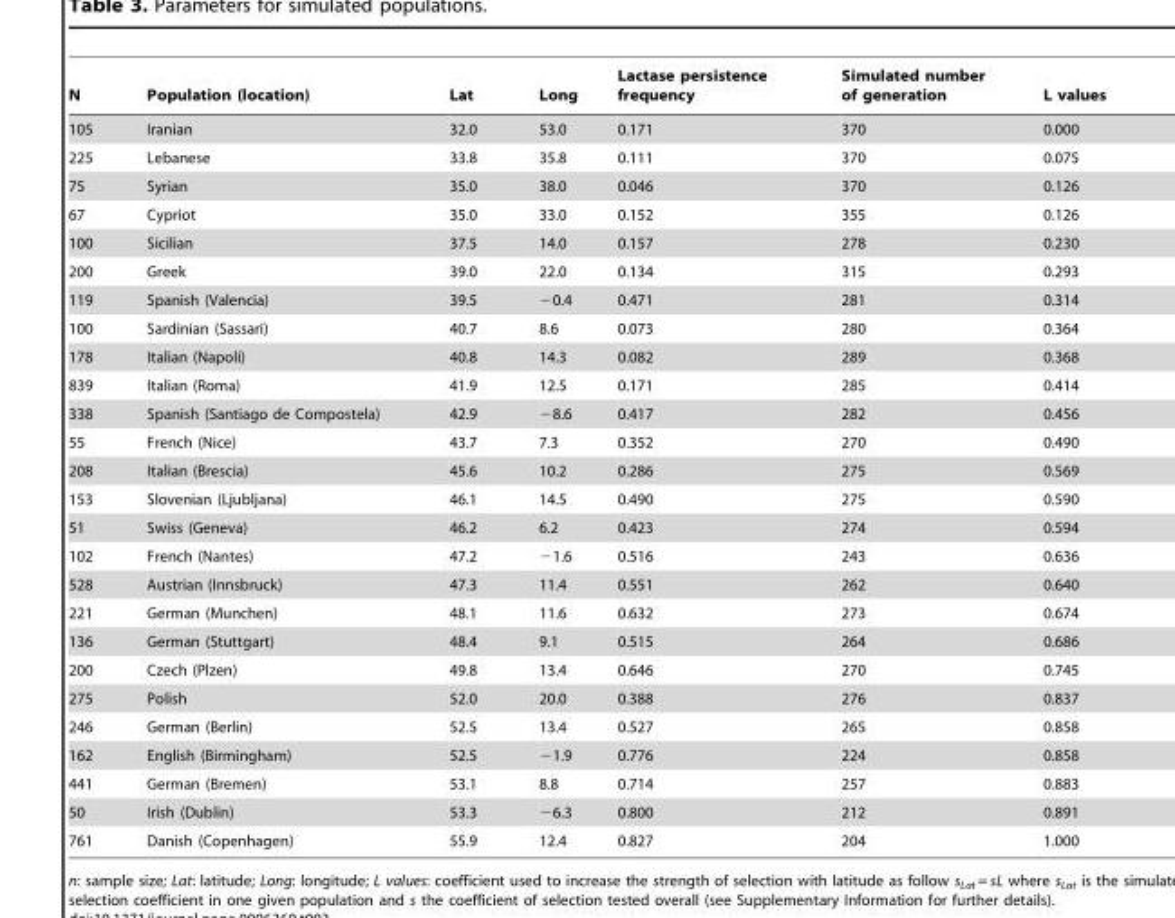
<table><thead><tr><td>N</td><td>Population (location)</td><td>Lat</td><td>Long</td><td>Lactase persistence frequency</td><td>Simulated number of generation</td><td>L values</td></tr></thead><tbody><tr><td>105</td><td>Iranian</td><td>32.0</td><td>53.0</td><td>0.171</td><td>370</td><td>0.000</td></tr><tr><td>225</td><td>Lebanese</td><td>33.8</td><td>35.8</td><td>0.111</td><td>370</td><td>0.075</td></tr><tr><td>75</td><td>Syrian</td><td>35.0</td><td>38.0</td><td>0.046</td><td>370</td><td>0.126</td></tr><tr><td>67</td><td>Cypriot</td><td>35.0</td><td>33.0</td><td>0.152</td><td>355</td><td>0.126</td></tr><tr><td>100</td><td>Sicilian</td><td>37.5</td><td>14.0</td><td>0.157</td><td>278</td><td>0.230</td></tr><tr><td>200</td><td>Greek</td><td>39.0</td><td>22.0</td><td>0.134</td><td>315</td><td>0.293</td></tr><tr><td>119</td><td>Spanish (Valencia)</td><td>39.5</td><td>−0.4</td><td>0.471</td><td>281</td><td>0.314</td></tr><tr><td>100</td><td>Sardinian (Sassari)</td><td>40.7</td><td>8.6</td><td>0.073</td><td>280</td><td>0.364</td></tr><tr><td>178</td><td>Italian (Napoli)</td><td>40.8</td><td>14.3</td><td>0.082</td><td>289</td><td>0.368</td></tr><tr><td>839</td><td>Italian (Roma)</td><td>41.9</td><td>12.5</td><td>0.171</td><td>285</td><td>0.414</td></tr><tr><td>338</td><td>Spanish (Santiago de Compostela)</td><td>42.9</td><td>−8.6</td><td>0.417</td><td>282</td><td>0.456</td></tr><tr><td>55</td><td>French (Nice)</td><td>43.7</td><td>7.3</td><td>0.352</td><td>270</td><td>0.490</td></tr><tr><td>208</td><td>Italian (Brescia)</td><td>45.6</td><td>10.2</td><td>0.286</td><td>275</td><td>0.569</td></tr><tr><td>153</td><td>Slovenian (Ljubljana)</td><td>46.1</td><td>14.5</td><td>0.490</td><td>275</td><td>0.590</td></tr><tr><td>51</td><td>Swiss (Geneva)</td><td>46.2</td><td>6.2</td><td>0.423</td><td>274</td><td>0.594</td></tr><tr><td>102</td><td>French (Nantes)</td><td>47.2</td><td>−1.6</td><td>0.516</td><td>243</td><td>0.636</td></tr><tr><td>528</td><td>Austrian (Innsbruck)</td><td>47.3</td><td>11.4</td><td>0.551</td><td>262</td><td>0.640</td></tr><tr><td>221</td><td>German (Munchen)</td><td>48.1</td><td>11.6</td><td>0.632</td><td>273</td><td>0.674</td></tr><tr><td>136</td><td>German (Stuttgart)</td><td>48.4</td><td>9.1</td><td>0.515</td><td>264</td><td>0.686</td></tr><tr><td>200</td><td>Czech (Plzen)</td><td>49.8</td><td>13.4</td><td>0.646</td><td>270</td><td>0.745</td></tr><tr><td>275</td><td>Polish</td><td>52.0</td><td>20.0</td><td>0.388</td><td>276</td><td>0.837</td></tr><tr><td>246</td><td>German (Berlin)</td><td>52.5</td><td>13.4</td><td>0.527</td><td>265</td><td>0.858</td></tr><tr><td>162</td><td>English (Birmingham)</td><td>52.5</td><td>−1.9</td><td>0.776</td><td>224</td><td>0.858</td></tr><tr><td>441</td><td>German (Bremen)</td><td>53.1</td><td>8.8</td><td>0.714</td><td>257</td><td>0.883</td></tr><tr><td>50</td><td>Irish (Dublin)</td><td>53.3</td><td>−6.3</td><td>0.800</td><td>212</td><td>0.891</td></tr><tr><td>761</td><td>Danish (Copenhagen)</td><td>55.9</td><td>12.4</td><td>0.827</td><td>204</td><td>1.000</td></tr></tbody></table>